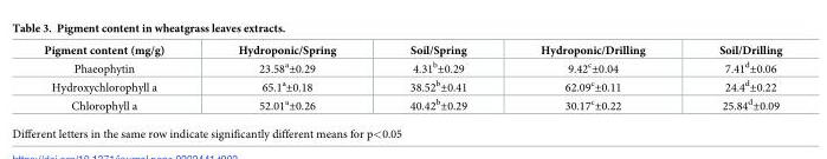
<table><thead><tr><td>Pigment content (mg/g)</td><td>Hydroponic/Spring</td><td>Soil/Spring</td><td>Hydroponic/Drilling</td><td>Soil/Drilling</td></tr></thead><tbody><tr><td>Phaeophytin</td><td>23.58<sup>a</sup>±0.29</td><td>4.31<sup>b</sup>±0.29</td><td>9.42<sup>c</sup>±0.04</td><td>7.41<sup>d</sup>±0.06</td></tr><tr><td>Hydroxychlorophyll a</td><td>65.1<sup>a</sup>±0.18</td><td>38.52<sup>b</sup>±0.41</td><td>62.09<sup>c</sup>±0.11</td><td>24.4<sup>d</sup>±0.22</td></tr><tr><td>Chlorophyll a</td><td>52.01<sup>a</sup>±0.26</td><td>40.42<sup>b</sup>±0.29</td><td>30.17<sup>c</sup>±0.22</td><td>25.84<sup>d</sup>±0.09</td></tr></tbody></table>